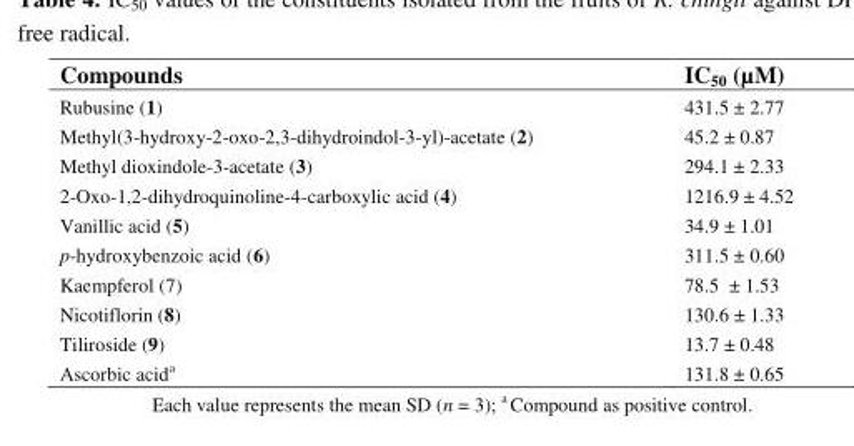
<table><thead><tr><td>Compounds</td><td>IC<sub>50</sub> (µM)</td></tr></thead><tbody><tr><td>Rubusine (1)</td><td>431.5 ± 2.77</td></tr><tr><td>Methyl(3-hydroxy-2-oxo-2,3-dihydroindol-3-yl)-acetate (2)</td><td>45.2 ± 0.87</td></tr><tr><td>Methyl dioxindole-3-acetate (3)</td><td>294.1 ± 2.33</td></tr><tr><td>2-Oxo-1,2-dihydroquinoline-4-carboxylic acid (4)</td><td>1216.9 ± 4.52</td></tr><tr><td>Vanillic acid (5)</td><td>34.9 ± 1.01</td></tr><tr><td>p-hydroxybenzoic acid (6)</td><td>311.5 ± 0.60</td></tr><tr><td>Kaempferol (7)</td><td>78.5 ± 1.53</td></tr><tr><td>Nicotiflorin (8)</td><td>130.6 ± 1.33</td></tr><tr><td>Tiliroside (9)</td><td>13.7 ± 0.48</td></tr><tr><td>Ascorbic acid<sup>a</sup></td><td>131.8 ± 0.65</td></tr></tbody></table>